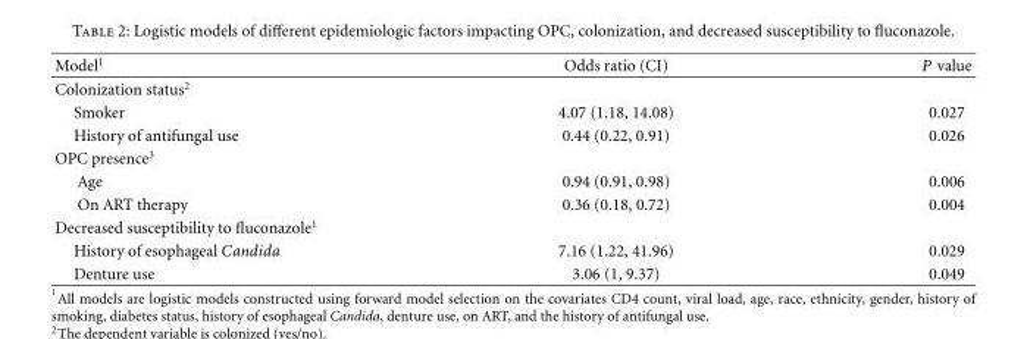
<table><thead><tr><td>Model<sup>1</sup></td><td>Odds ratio (CI)</td><td>P value</td></tr></thead><tbody><tr><td colspan="3">Colonization status<sup>2</sup></td></tr><tr><td>Smoker</td><td>4.07 (1.18, 14.08)</td><td>0.027</td></tr><tr><td>History of antifungal use</td><td>0.44 (0.22, 0.91)</td><td>0.026</td></tr><tr><td colspan="3">OPC presence<sup>3</sup></td></tr><tr><td>Age</td><td>0.94 (0.91, 0.98)</td><td>0.006</td></tr><tr><td>On ART therapy</td><td>0.36 (0.18, 0.72)</td><td>0.004</td></tr><tr><td colspan="3">Decreased susceptibility to fluconazole<sup>1</sup></td></tr><tr><td>History of esophageal Candida</td><td>7.16 (1.22, 41.96)</td><td>0.029</td></tr><tr><td>Denture use</td><td>3.06 (1, 9.37)</td><td>0.049</td></tr></tbody></table>